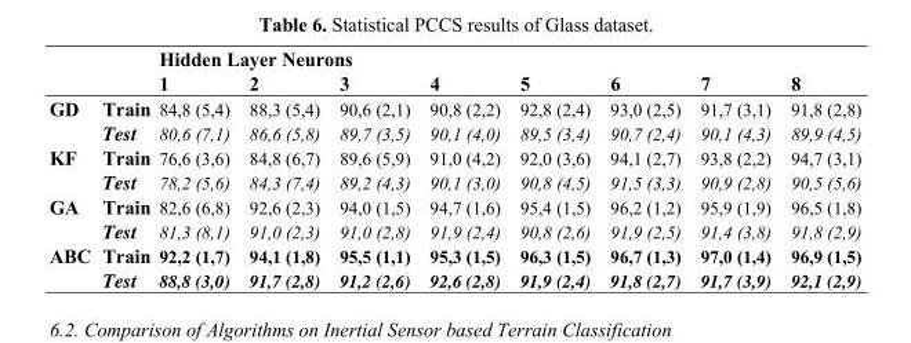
<table><thead><tr><td rowspan="2"></td><td rowspan="2"></td><td colspan="8">Hidden Layer Neurons</td></tr><tr><td>1</td><td>2</td><td>3</td><td>4</td><td>5</td><td>6</td><td>7</td><td>8</td></tr></thead><tbody><tr><td rowspan="2">GD</td><td>Train</td><td>84,8 (5,4)</td><td>88,3 (5,4)</td><td>90,6 (2,1)</td><td>90,8 (2,2)</td><td>92,8 (2,4)</td><td>93,0 (2,5)</td><td>91,7 (3,1)</td><td>91,8 (2,8)</td></tr><tr><td>Test</td><td>80,6 (7,1)</td><td>86,6 (5,8)</td><td>89,7 (3,5)</td><td>90,1 (4,0)</td><td>89,5 (3,4)</td><td>90,7 (2,4)</td><td>90,1 (4,3)</td><td>89,9 (4,5)</td></tr><tr><td rowspan="2">KF</td><td>Train</td><td>76,6 (3,6)</td><td>84,8 (6,7)</td><td>89,6 (5,9)</td><td>91,0 (4,2)</td><td>92,0 (3,6)</td><td>94,1 (2,7)</td><td>93,8 (2,2)</td><td>94,7 (3,1)</td></tr><tr><td>Test</td><td>78,2 (5,6)</td><td>84,3 (7,4)</td><td>89,2 (4,3)</td><td>90,1 (3,0)</td><td>90,8 (4,5)</td><td>91,5 (3,3)</td><td>90,9 (2,8)</td><td>90,5 (5,6)</td></tr><tr><td rowspan="2">GA</td><td>Train</td><td>82,6 (6,8)</td><td>92,6 (2,3)</td><td>94,0 (1,5)</td><td>94,7 (1,6)</td><td>95,4 (1,5)</td><td>96,2 (1,2)</td><td>95,9 (1,9)</td><td>96,5 (1,8)</td></tr><tr><td>Test</td><td>81,3 (8,1)</td><td>91,0 (2,3)</td><td>91,0 (2,8)</td><td>91,9 (2,4)</td><td>90,8 (2,6)</td><td>91,9 (2,5)</td><td>91,4 (3,8)</td><td>91,8 (2,9)</td></tr><tr><td rowspan="2">ABC</td><td>Train</td><td>92,2 (1,7)</td><td>94,1 (1,8)</td><td>95,5 (1,1)</td><td>95,3 (1,5)</td><td>96,3 (1,5)</td><td>96,7 (1,3)</td><td>97,0 (1,4)</td><td>96,9 (1,5)</td></tr><tr><td>Test</td><td>88,8 (3,0)</td><td>91,7 (2,8)</td><td>91,2 (2,6)</td><td>92,6 (2,8)</td><td>91,9 (2,4)</td><td>91,8 (2,7)</td><td>91,7 (3,9)</td><td>92,1 (2,9)</td></tr></tbody></table>